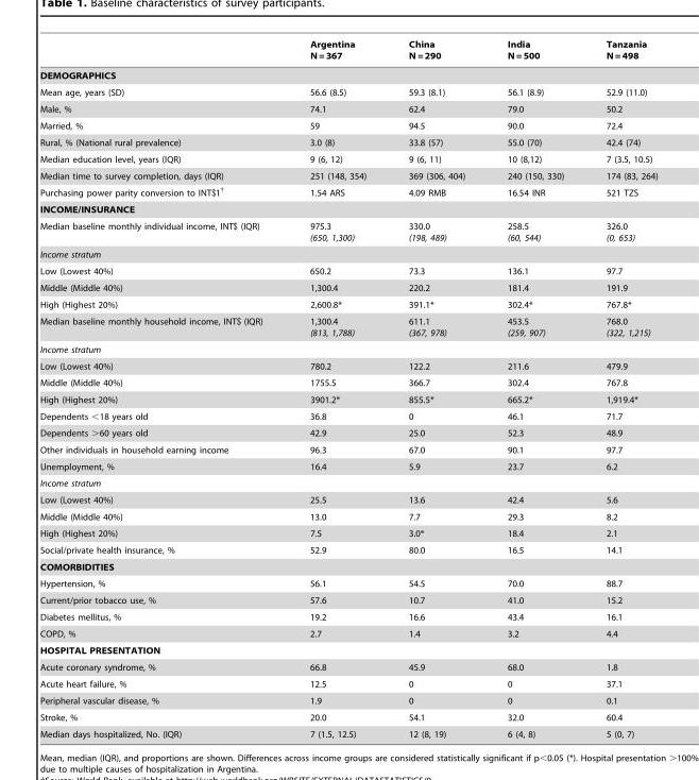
<table><thead><tr><td></td><td>Argentina N = 367</td><td>China N = 290</td><td>India N = 500</td><td>Tanzania N = 498</td></tr></thead><tbody><tr><td colspan="5">DEMOGRAPHICS</td></tr><tr><td>Mean age, years (SD)</td><td>56.6 (8.5)</td><td>59.3 (8.1)</td><td>56.1 (8.9)</td><td>52.9 (11.0)</td></tr><tr><td>Male, %</td><td>74.1</td><td>62.4</td><td>79.0</td><td>50.2</td></tr><tr><td>Married, %</td><td>59</td><td>94.5</td><td>90.0</td><td>72.4</td></tr><tr><td>Rural, % (National rural prevalence)</td><td>3.0 (8)</td><td>33.8 (57)</td><td>55.0 (70)</td><td>42.4 (74)</td></tr><tr><td>Median education level, years (IQR)</td><td>9 (6, 12)</td><td>9 (6, 11)</td><td>10 (8,12)</td><td>7 (3.5, 10.5)</td></tr><tr><td>Median time to survey completion, days (IQR)</td><td>251 (148, 354)</td><td>369 (306, 404)</td><td>240 (150, 330)</td><td>174 (83, 264)</td></tr><tr><td>Purchasing power parity conversion to INT$1†</td><td>1.54 ARS</td><td>4.09 RMB</td><td>16.54 INR</td><td>521 TZS</td></tr><tr><td colspan="5">INCOME/INSURANCE</td></tr><tr><td>Median baseline monthly individual income, INT$ (IQR)</td><td>975.3 (650, 1,300)</td><td>330.0 (198, 489)</td><td>258.5 (60, 544)</td><td>326.0 (0, 653)</td></tr><tr><td colspan="5">Income stratum</td></tr><tr><td>Low (Lowest 40%)</td><td>650.2</td><td>73.3</td><td>136.1</td><td>97.7</td></tr><tr><td>Middle (Middle 40%)</td><td>1,300.4</td><td>220.2</td><td>181.4</td><td>191.9</td></tr><tr><td>High (Highest 20%)</td><td>2,600.8*</td><td>391.1*</td><td>302.4*</td><td>767.8*</td></tr><tr><td>Median baseline monthly household income, INT$ (IQR)</td><td>1,300.4 (813, 1,788)</td><td>611.1 (367, 978)</td><td>453.5 (259, 907)</td><td>768.0 (322, 1,215)</td></tr><tr><td colspan="5">Income stratum</td></tr><tr><td>Low (Lowest 40%)</td><td>780.2</td><td>122.2</td><td>211.6</td><td>479.9</td></tr><tr><td>Middle (Middle 40%)</td><td>1755.5</td><td>366.7</td><td>302.4</td><td>767.8</td></tr><tr><td>High (Highest 20%)</td><td>3901.2*</td><td>855.5*</td><td>665.2*</td><td>1,919.4*</td></tr><tr><td>Dependents &lt;18 years old</td><td>36.8</td><td>0</td><td>46.1</td><td>71.7</td></tr><tr><td>Dependents &gt;60 years old</td><td>42.9</td><td>25.0</td><td>52.3</td><td>48.9</td></tr><tr><td>Other individuals in household earning income</td><td>96.3</td><td>67.0</td><td>90.1</td><td>97.7</td></tr><tr><td>Unemployment, %</td><td>16.4</td><td>5.9</td><td>23.7</td><td>6.2</td></tr><tr><td colspan="5">Income stratum</td></tr><tr><td>Low (Lowest 40%)</td><td>25.5</td><td>13.6</td><td>42.4</td><td>5.6</td></tr><tr><td>Middle (Middle 40%)</td><td>13.0</td><td>7.7</td><td>29.3</td><td>8.2</td></tr><tr><td>High (Highest 20%)</td><td>7.5</td><td>3.0*</td><td>18.4</td><td>2.1</td></tr><tr><td>Social/private health insurance, %</td><td>52.9</td><td>80.0</td><td>16.5</td><td>14.1</td></tr><tr><td colspan="5">COMORBIDITIES</td></tr><tr><td>Hypertension, %</td><td>56.1</td><td>54.5</td><td>70.0</td><td>88.7</td></tr><tr><td>Current/prior tobacco use, %</td><td>57.6</td><td>10.7</td><td>41.0</td><td>15.2</td></tr><tr><td>Diabetes mellitus, %</td><td>19.2</td><td>16.6</td><td>43.4</td><td>16.1</td></tr><tr><td>COPD, %</td><td>2.7</td><td>1.4</td><td>3.2</td><td>4.4</td></tr><tr><td colspan="5">HOSPITAL PRESENTATION</td></tr><tr><td>Acute coronary syndrome, %</td><td>66.8</td><td>45.9</td><td>68.0</td><td>1.8</td></tr><tr><td>Acute heart failure, %</td><td>12.5</td><td>0</td><td>0</td><td>37.1</td></tr><tr><td>Peripheral vascular disease, %</td><td>1.9</td><td>0</td><td>0</td><td>0.1</td></tr><tr><td>Stroke, %</td><td>20.0</td><td>54.1</td><td>32.0</td><td>60.4</td></tr><tr><td>Median days hospitalized, No. (IQR)</td><td>7 (1.5, 12.5)</td><td>12 (8, 19)</td><td>6 (4, 8)</td><td>5 (0, 7)</td></tr></tbody></table>